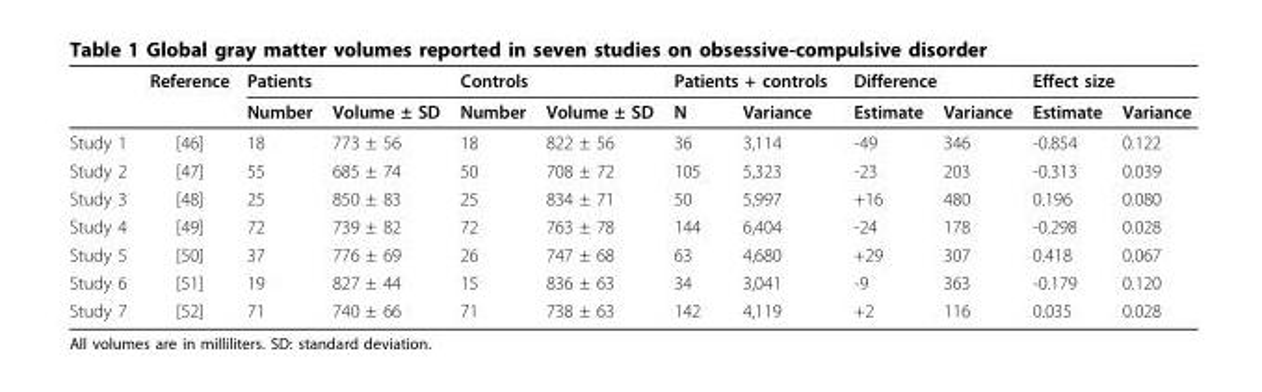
<table><thead><tr><td rowspan="2"></td><td rowspan="2">Reference</td><td colspan="2">Patients</td><td colspan="2">Controls</td><td colspan="2">Patients + controls</td><td colspan="2">Difference</td><td colspan="2">Effect size</td></tr><tr><td>Number</td><td>Volume ± SD</td><td>Number</td><td>Volume ± SD</td><td>N</td><td>Variance</td><td>Estimate</td><td>Variance</td><td>Estimate</td><td>Variance</td></tr></thead><tbody><tr><td>Study 1</td><td>[46]</td><td>18</td><td>773 ± 56</td><td>18</td><td>822 ± 56</td><td>36</td><td>3,114</td><td>-49</td><td>346</td><td>-0.854</td><td>0.122</td></tr><tr><td>Study 2</td><td>[47]</td><td>55</td><td>685 ± 74</td><td>50</td><td>708 ± 72</td><td>105</td><td>5,323</td><td>-23</td><td>203</td><td>-0.313</td><td>0.039</td></tr><tr><td>Study 3</td><td>[48]</td><td>25</td><td>850 ± 83</td><td>25</td><td>834 ± 71</td><td>50</td><td>5,997</td><td>+16</td><td>480</td><td>0.196</td><td>0.080</td></tr><tr><td>Study 4</td><td>[49]</td><td>72</td><td>739 ± 82</td><td>72</td><td>763 ± 78</td><td>144</td><td>6,404</td><td>-24</td><td>178</td><td>-0.298</td><td>0.028</td></tr><tr><td>Study 5</td><td>[50]</td><td>37</td><td>776 ± 69</td><td>26</td><td>747 ± 68</td><td>63</td><td>4,680</td><td>+29</td><td>307</td><td>0.418</td><td>0.067</td></tr><tr><td>Study 6</td><td>[51]</td><td>19</td><td>827 ± 44</td><td>15</td><td>836 ± 63</td><td>34</td><td>3,041</td><td>-9</td><td>363</td><td>-0.179</td><td>0.120</td></tr><tr><td>Study 7</td><td>[52]</td><td>71</td><td>740 ± 66</td><td>71</td><td>738 ± 63</td><td>142</td><td>4,119</td><td>+2</td><td>116</td><td>0.035</td><td>0.028</td></tr></tbody></table>